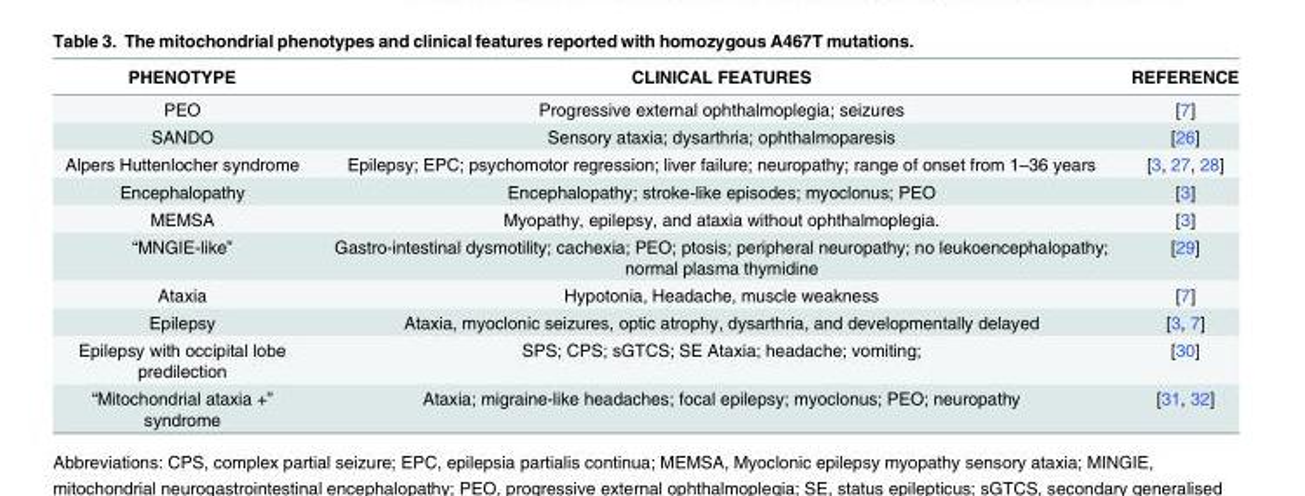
<table><thead><tr><td>PHENOTYPE</td><td>CLINICAL FEATURES</td><td>REFERENCE</td></tr></thead><tbody><tr><td>PEO</td><td>Progressive external ophthalmoplegia; seizures</td><td>[7]</td></tr><tr><td>SANDO</td><td>Sensory ataxia; dysarthria; ophthalmoparesis</td><td>[26]</td></tr><tr><td>Alpers Huttenlocher syndrome</td><td>Epilepsy; EPC; psychomotor regression; liver failure; neuropathy; range of onset from 1–36 years</td><td>[3, 27, 28]</td></tr><tr><td>Encephalopathy</td><td>Encephalopathy; stroke-like episodes; myoclonus; PEO</td><td>[3]</td></tr><tr><td>MEMSA</td><td>Myopathy, epilepsy, and ataxia without ophthalmoplegia.</td><td>[3]</td></tr><tr><td>“MNGIE-like”</td><td>Gastro-intestinal dysmotility; cachexia; PEO; ptosis; peripheral neuropathy; no leukoencephalopathy; normal plasma thymidine</td><td>[29]</td></tr><tr><td>Ataxia</td><td>Hypotonia, Headache, muscle weakness</td><td>[7]</td></tr><tr><td>Epilepsy</td><td>Ataxia, myoclonic seizures, optic atrophy, dysarthria, and developmentally delayed</td><td>[3, 7]</td></tr><tr><td>Epilepsy with occipital lobe predilection</td><td>SPS; CPS; sGTCS; SE Ataxia; headache; vomiting;</td><td>[30]</td></tr><tr><td>“Mitochondrial ataxia +” syndrome</td><td>Ataxia; migraine-like headaches; focal epilepsy; myoclonus; PEO; neuropathy</td><td>[31, 32]</td></tr></tbody></table>